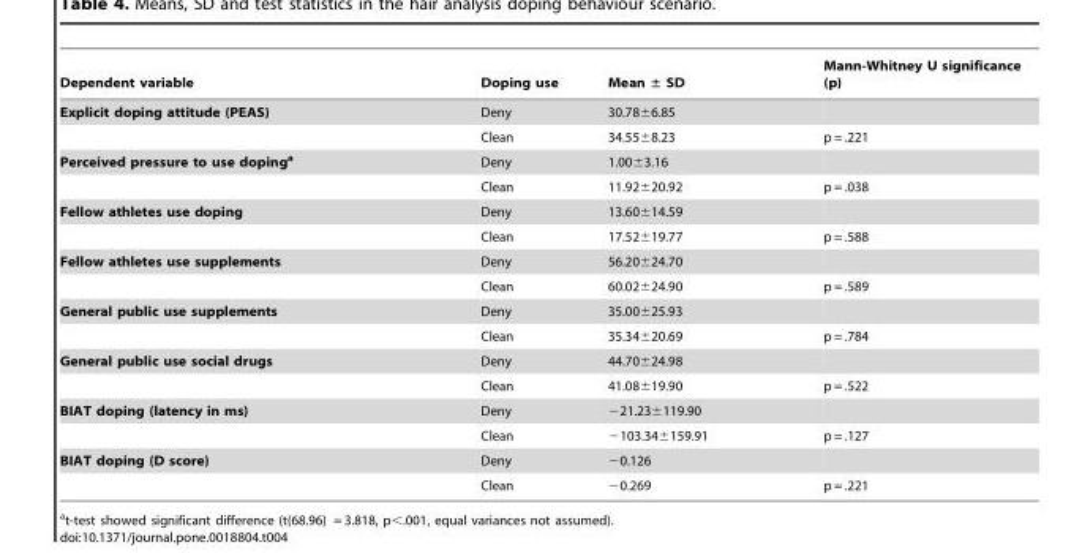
<table><thead><tr><td>Dependent variable</td><td>Doping use</td><td>Mean ± SD</td><td>Mann-Whitney U significance (p)</td></tr></thead><tbody><tr><td rowspan="2">Explicit doping attitude (PEAS)</td><td>Deny</td><td>30.78±6.85</td><td></td></tr><tr><td>Clean</td><td>34.55±8.23</td><td>p = .221</td></tr><tr><td rowspan="2">Perceived pressure to use dopinga</td><td>Deny</td><td>1.00±3.16</td><td></td></tr><tr><td>Clean</td><td>11.92±20.92</td><td>p = .038</td></tr><tr><td rowspan="2">Fellow athletes use doping</td><td>Deny</td><td>13.60±14.59</td><td></td></tr><tr><td>Clean</td><td>17.52±19.77</td><td>p = .588</td></tr><tr><td rowspan="2">Fellow athletes use supplements</td><td>Deny</td><td>56.20±24.70</td><td></td></tr><tr><td>Clean</td><td>60.02±24.90</td><td>p = .589</td></tr><tr><td rowspan="2">General public use supplements</td><td>Deny</td><td>35.00±25.93</td><td></td></tr><tr><td>Clean</td><td>35.34±20.69</td><td>p = .784</td></tr><tr><td rowspan="2">General public use social drugs</td><td>Deny</td><td>44.70±24.98</td><td></td></tr><tr><td>Clean</td><td>41.08±19.90</td><td>p = .522</td></tr><tr><td rowspan="2">BIAT doping (latency in ms)</td><td>Deny</td><td>−21.23±119.90</td><td></td></tr><tr><td>Clean</td><td>−103.34±159.91</td><td>p = .127</td></tr><tr><td rowspan="2">BIAT doping (D score)</td><td>Deny</td><td>−0.126</td><td></td></tr><tr><td>Clean</td><td>−0.269</td><td>p = .221</td></tr></tbody></table>